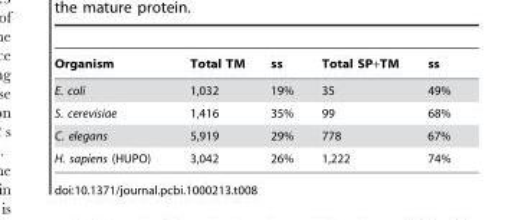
<table><thead><tr><td>Organism</td><td>Total TM</td><td>ss</td><td>Total SP+TM</td><td>ss</td></tr></thead><tbody><tr><td>E. coli</td><td>1,032</td><td>19%</td><td>35</td><td>49%</td></tr><tr><td>S. cerevisiae</td><td>1,416</td><td>35%</td><td>99</td><td>68%</td></tr><tr><td>C. elegans</td><td>5,919</td><td>29%</td><td>778</td><td>67%</td></tr><tr><td>H. sapiens (HUPO)</td><td>3,042</td><td>26%</td><td>1,222</td><td>74%</td></tr></tbody></table>